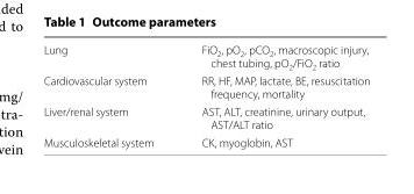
<table><tbody><tr><td>Lung</td><td>FiO<sub>2</sub>, pO<sub>2</sub>, pCO<sub>2</sub>, macroscopic injury, chest tubing, pO<sub>2</sub>/FiO<sub>2</sub> ratio</td></tr><tr><td>Cardiovascular system</td><td>RR, HF, MAP, lactate, BE, resuscitation frequency, mortality</td></tr><tr><td>Liver/renal system</td><td>AST, ALT, creatinine, urinary output, AST/ALT ratio</td></tr><tr><td>Musculoskeletal system</td><td>CK, myoglobin, AST</td></tr></tbody></table>